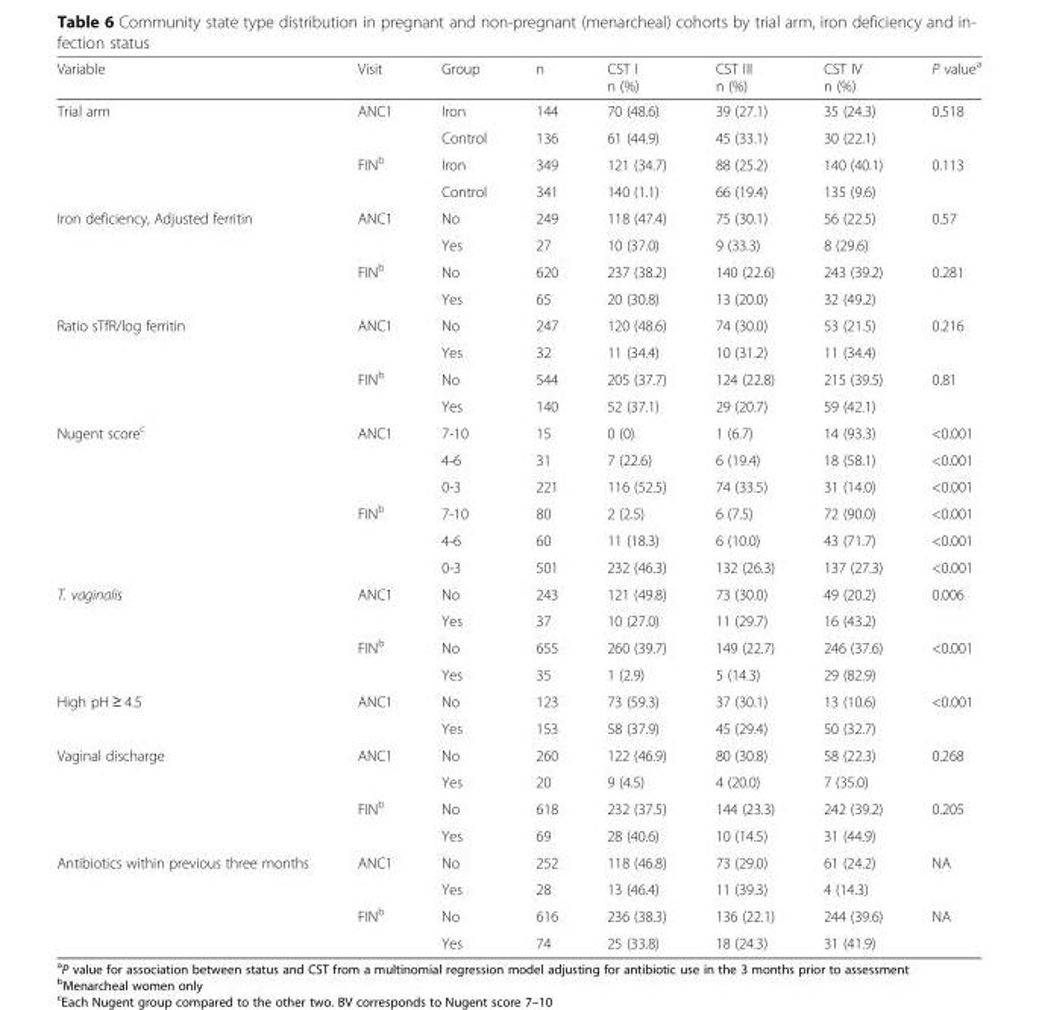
<table><thead><tr><td>Variable</td><td>Visit</td><td>Group</td><td>n</td><td>CST I n (%)</td><td>CST III n (%)</td><td>CST IV n (%)</td><td>P value<sup>a</sup></td></tr></thead><tbody><tr><td rowspan="4">Trial arm</td><td rowspan="2">ANC1</td><td>Iron</td><td>144</td><td>70 (48.6)</td><td>39 (27.1)</td><td>35 (24.3)</td><td>0.518</td></tr><tr><td>Control</td><td>136</td><td>61 (44.9)</td><td>45 (33.1)</td><td>30 (22.1)</td><td></td></tr><tr><td rowspan="2">FIN<sup>b</sup></td><td>Iron</td><td>349</td><td>121 (34.7)</td><td>88 (25.2)</td><td>140 (40.1)</td><td>0.113</td></tr><tr><td>Control</td><td>341</td><td>140 (1.1)</td><td>66 (19.4)</td><td>135 (9.6)</td><td></td></tr><tr><td rowspan="4">Iron deficiency, Adjusted ferritin</td><td rowspan="2">ANC1</td><td>No</td><td>249</td><td>118 (47.4)</td><td>75 (30.1)</td><td>56 (22.5)</td><td>0.57</td></tr><tr><td>Yes</td><td>27</td><td>10 (37.0)</td><td>9 (33.3)</td><td>8 (29.6)</td><td></td></tr><tr><td rowspan="2">FIN<sup>b</sup></td><td>No</td><td>620</td><td>237 (38.2)</td><td>140 (22.6)</td><td>243 (39.2)</td><td>0.281</td></tr><tr><td>Yes</td><td>65</td><td>20 (30.8)</td><td>13 (20.0)</td><td>32 (49.2)</td><td></td></tr><tr><td rowspan="4">Ratio sTfR/log ferritin</td><td rowspan="2">ANC1</td><td>No</td><td>247</td><td>120 (48.6)</td><td>74 (30.0)</td><td>53 (21.5)</td><td>0.216</td></tr><tr><td>Yes</td><td>32</td><td>11 (34.4)</td><td>10 (31.2)</td><td>11 (34.4)</td><td></td></tr><tr><td rowspan="2">FIN<sup>b</sup></td><td>No</td><td>544</td><td>205 (37.7)</td><td>124 (22.8)</td><td>215 (39.5)</td><td>0.81</td></tr><tr><td>Yes</td><td>140</td><td>52 (37.1)</td><td>29 (20.7)</td><td>59 (42.1)</td><td></td></tr><tr><td rowspan="6">Nugent score<sup>c</sup></td><td rowspan="3">ANC1</td><td>7-10</td><td>15</td><td>0 (0)</td><td>1 (6.7)</td><td>14 (93.3)</td><td>&lt;0.001</td></tr><tr><td>4-6</td><td>31</td><td>7 (22.6)</td><td>6 (19.4)</td><td>18 (58.1)</td><td>&lt;0.001</td></tr><tr><td>0-3</td><td>221</td><td>116 (52.5)</td><td>74 (33.5)</td><td>31 (14.0)</td><td>&lt;0.001</td></tr><tr><td rowspan="3">FIN<sup>b</sup></td><td>7-10</td><td>80</td><td>2 (2.5)</td><td>6 (7.5)</td><td>72 (90.0)</td><td>&lt;0.001</td></tr><tr><td>4-6</td><td>60</td><td>11 (18.3)</td><td>6 (10.0)</td><td>43 (71.7)</td><td>&lt;0.001</td></tr><tr><td>0-3</td><td>501</td><td>232 (46.3)</td><td>132 (26.3)</td><td>137 (27.3)</td><td>&lt;0.001</td></tr><tr><td rowspan="4">T. vaginalis</td><td rowspan="2">ANC1</td><td>No</td><td>243</td><td>121 (49.8)</td><td>73 (30.0)</td><td>49 (20.2)</td><td>0.006</td></tr><tr><td>Yes</td><td>37</td><td>10 (27.0)</td><td>11 (29.7)</td><td>16 (43.2)</td><td></td></tr><tr><td rowspan="2">FIN<sup>b</sup></td><td>No</td><td>655</td><td>260 (39.7)</td><td>149 (22.7)</td><td>246 (37.6)</td><td>&lt;0.001</td></tr><tr><td>Yes</td><td>35</td><td>1 (2.9)</td><td>5 (14.3)</td><td>29 (82.9)</td><td></td></tr><tr><td rowspan="2">High pH ≥ 4.5</td><td rowspan="2">ANC1</td><td>No</td><td>123</td><td>73 (59.3)</td><td>37 (30.1)</td><td>13 (10.6)</td><td>&lt;0.001</td></tr><tr><td>Yes</td><td>153</td><td>58 (37.9)</td><td>45 (29.4)</td><td>50 (32.7)</td><td></td></tr><tr><td rowspan="4">Vaginal discharge</td><td rowspan="2">ANC1</td><td>No</td><td>260</td><td>122 (46.9)</td><td>80 (30.8)</td><td>58 (22.3)</td><td>0.268</td></tr><tr><td>Yes</td><td>20</td><td>9 (4.5)</td><td>4 (20.0)</td><td>7 (35.0)</td><td></td></tr><tr><td rowspan="2">FIN<sup>b</sup></td><td>No</td><td>618</td><td>232 (37.5)</td><td>144 (23.3)</td><td>242 (39.2)</td><td>0.205</td></tr><tr><td>Yes</td><td>69</td><td>28 (40.6)</td><td>10 (14.5)</td><td>31 (44.9)</td><td></td></tr><tr><td rowspan="4">Antibiotics within previous three months</td><td rowspan="2">ANC1</td><td>No</td><td>252</td><td>118 (46.8)</td><td>73 (29.0)</td><td>61 (24.2)</td><td>NA</td></tr><tr><td>Yes</td><td>28</td><td>13 (46.4)</td><td>11 (39.3)</td><td>4 (14.3)</td><td></td></tr><tr><td rowspan="2">FIN<sup>b</sup></td><td>No</td><td>616</td><td>236 (38.3)</td><td>136 (22.1)</td><td>244 (39.6)</td><td>NA</td></tr><tr><td>Yes</td><td>74</td><td>25 (33.8)</td><td>18 (24.3)</td><td>31 (41.9)</td><td></td></tr></tbody></table>